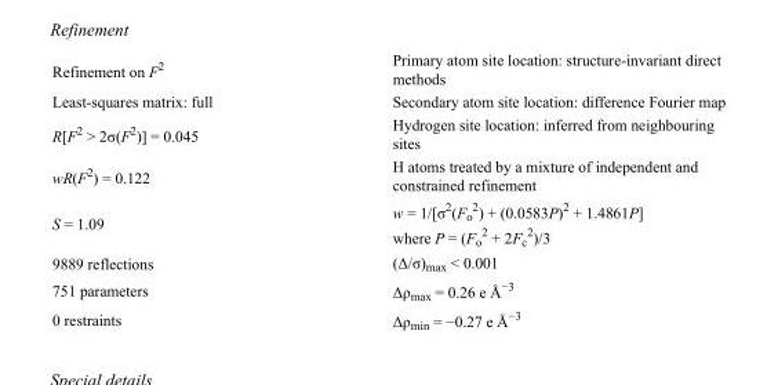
<table><tbody><tr><td>Refinement on F<sup>2</sup></td><td>Primary atom site location: structure-invariant direct methods</td></tr><tr><td>Least-squares matrix: full</td><td>Secondary atom site location: difference Fourier map</td></tr><tr><td>R[F<sup>2</sup> &gt; 2σ(F<sup>2</sup>)] = 0.045</td><td>Hydrogen site location: inferred from neighbouring sites</td></tr><tr><td>wR(F<sup>2</sup>) = 0.122</td><td>H atoms treated by a mixture of independent and constrained refinement</td></tr><tr><td>S = 1.09</td><td>w = 1/[σ<sup>2</sup>(F<sub>o</sub> <sup>2</sup>) + (0.0583P)<sup>2</sup> + 1.4861P] where P = (F<sub>o</sub> <sup>2</sup> + 2F<sub>c</sub> <sup>2</sup>)/3</td></tr><tr><td>9889 reflections</td><td>(Δ/σ)<sub>max</sub> &lt; 0.001</td></tr><tr><td>751 parameters</td><td>Δρ<sub>max</sub> = 0.26 e Å<sup>−3</sup></td></tr><tr><td>0 restraints</td><td>Δρ<sub>min</sub> = −0.27 e Å<sup>−3</sup></td></tr></tbody></table>